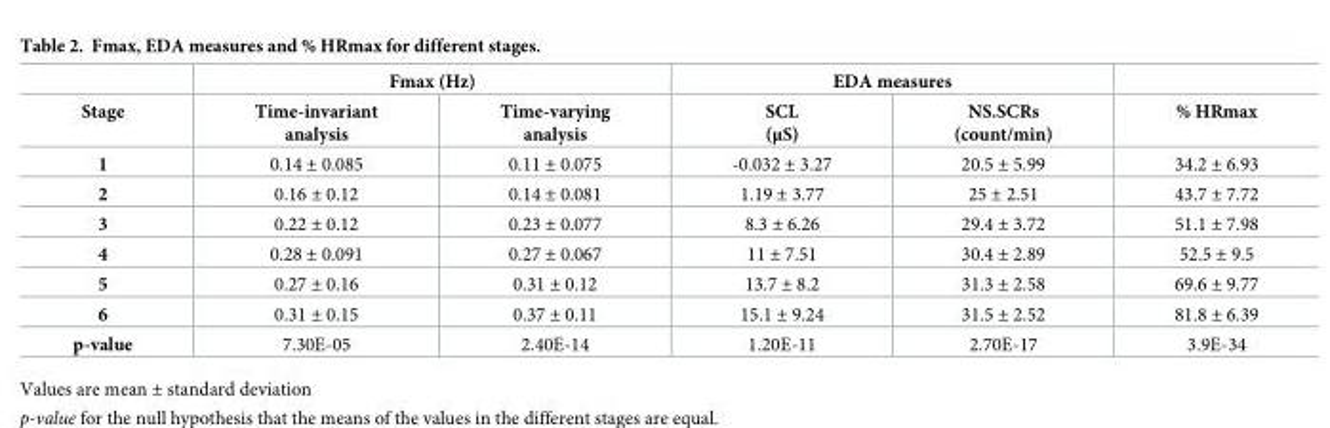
<table><thead><tr><td rowspan="2">Stage</td><td colspan="2">Fmax (Hz)</td><td colspan="2">EDA measures</td><td rowspan="2">% HRmax</td></tr><tr><td>Time-invariant analysis</td><td>Time-varying analysis</td><td>SCL (μS)</td><td>NS.SCRs (count/min)</td></tr></thead><tbody><tr><td>1</td><td>0.14 ± 0.085</td><td>0.11 ± 0.075</td><td>-0.032 ± 3.27</td><td>20.5 ± 5.99</td><td>34.2 ± 6.93</td></tr><tr><td>2</td><td>0.16 ± 0.12</td><td>0.14 ± 0.081</td><td>1.19 ± 3.77</td><td>25 ± 2.51</td><td>43.7 ± 7.72</td></tr><tr><td>3</td><td>0.22 ± 0.12</td><td>0.23 ± 0.077</td><td>8.3 ± 6.26</td><td>29.4 ± 3.72</td><td>51.1 ± 7.98</td></tr><tr><td>4</td><td>0.28 ± 0.091</td><td>0.27 ± 0.067</td><td>11 ± 7.51</td><td>30.4 ± 2.89</td><td>52.5 ± 9.5</td></tr><tr><td>5</td><td>0.27 ± 0.16</td><td>0.31 ± 0.12</td><td>13.7 ± 8.2</td><td>31.3 ± 2.58</td><td>69.6 ± 9.77</td></tr><tr><td>6</td><td>0.31 ± 0.15</td><td>0.37 ± 0.11</td><td>15.1 ± 9.24</td><td>31.5 ± 2.52</td><td>81.8 ± 6.39</td></tr><tr><td>p-value</td><td>7.30E-05</td><td>2.40E-14</td><td>1.20E-11</td><td>2.70E-17</td><td>3.9E-34</td></tr></tbody></table>